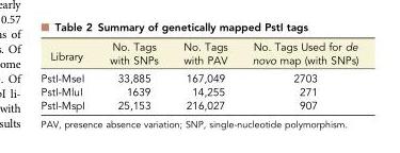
<table><thead><tr><td>Library</td><td>No. Tags with SNPs</td><td>No. Tags with PAV</td><td>No. Tags Used for de novo map (with SNPs)</td></tr></thead><tbody><tr><td>PstI-MseI</td><td>33,885</td><td>167,049</td><td>2703</td></tr><tr><td>PstI-MluI</td><td>1639</td><td>14,255</td><td>271</td></tr><tr><td>PstI-MspI</td><td>25,153</td><td>216,027</td><td>907</td></tr></tbody></table>